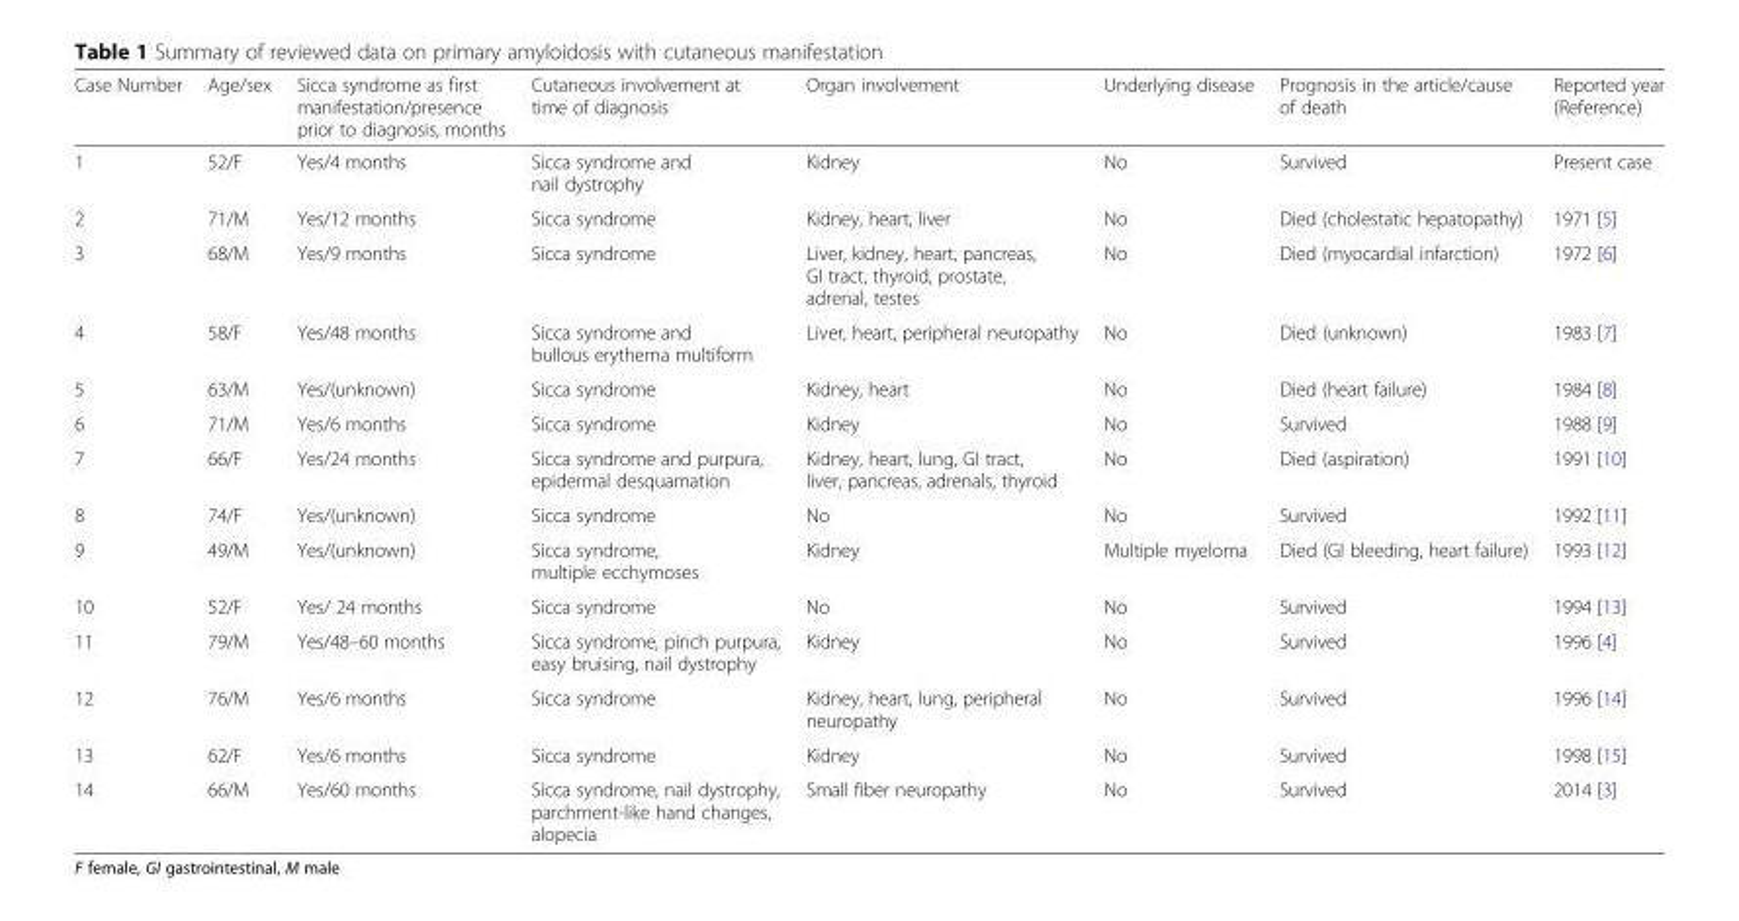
<table><thead><tr><td>Case Number</td><td>Age/sex</td><td>Sicca syndrome as first manifestation/presence prior to diagnosis, months</td><td>Cutaneous involvement at time of diagnosis</td><td>Organ involvement</td><td>Underlying disease</td><td>Prognosis in the article/cause of death</td><td>Reported year (Reference)</td></tr></thead><tbody><tr><td>1</td><td>52/F</td><td>Yes/4 months</td><td>Sicca syndrome and nail dystrophy</td><td>Kidney</td><td>No</td><td>Survived</td><td>Present case</td></tr><tr><td>2</td><td>71/M</td><td>Yes/12 months</td><td>Sicca syndrome</td><td>Kidney, heart, liver</td><td>No</td><td>Died (cholestatic hepatopathy)</td><td>1971 [5]</td></tr><tr><td>3</td><td>68/M</td><td>Yes/9 months</td><td>Sicca syndrome</td><td>Liver, kidney, heart, pancreas, GI tract, thyroid, prostate, adrenal, testes</td><td>No</td><td>Died (myocardial infarction)</td><td>1972 [6]</td></tr><tr><td>4</td><td>58/F</td><td>Yes/48 months</td><td>Sicca syndrome and bullous erythema multiform</td><td>Liver, heart, peripheral neuropathy</td><td>No</td><td>Died (unknown)</td><td>1983 [7]</td></tr><tr><td>5</td><td>63/M</td><td>Yes/(unknown)</td><td>Sicca syndrome</td><td>Kidney, heart</td><td>No</td><td>Died (heart failure)</td><td>1984 [8]</td></tr><tr><td>6</td><td>71/M</td><td>Yes/6 months</td><td>Sicca syndrome</td><td>Kidney</td><td>No</td><td>Survived</td><td>1988 [9]</td></tr><tr><td>7</td><td>66/F</td><td>Yes/24 months</td><td>Sicca syndrome and purpura, epidermal desquamation</td><td>Kidney, heart, lung, GI tract, liver, pancreas, adrenals, thyroid</td><td>No</td><td>Died (aspiration)</td><td>1991 [10]</td></tr><tr><td>8</td><td>74/F</td><td>Yes/(unknown)</td><td>Sicca syndrome</td><td>No</td><td>No</td><td>Survived</td><td>1992 [11]</td></tr><tr><td>9</td><td>49/M</td><td>Yes/(unknown)</td><td>Sicca syndrome, multiple ecchymoses</td><td>Kidney</td><td>Multiple myeloma</td><td>Died (GI bleeding, heart failure)</td><td>1993 [12]</td></tr><tr><td>10</td><td>52/F</td><td>Yes/ 24 months</td><td>Sicca syndrome</td><td>No</td><td>No</td><td>Survived</td><td>1994 [13]</td></tr><tr><td>11</td><td>79/M</td><td>Yes/48–60 months</td><td>Sicca syndrome, pinch purpura, easy bruising, nail dystrophy</td><td>Kidney</td><td>No</td><td>Survived</td><td>1996 [4]</td></tr><tr><td>12</td><td>76/M</td><td>Yes/6 months</td><td>Sicca syndrome</td><td>Kidney, heart, lung, peripheral neuropathy</td><td>No</td><td>Survived</td><td>1996 [14]</td></tr><tr><td>13</td><td>62/F</td><td>Yes/6 months</td><td>Sicca syndrome</td><td>Kidney</td><td>No</td><td>Survived</td><td>1998 [15]</td></tr><tr><td>14</td><td>66/M</td><td>Yes/60 months</td><td>Sicca syndrome, nail dystrophy, parchment-like hand changes, alopecia</td><td>Small fiber neuropathy</td><td>No</td><td>Survived</td><td>2014 [3]</td></tr></tbody></table>